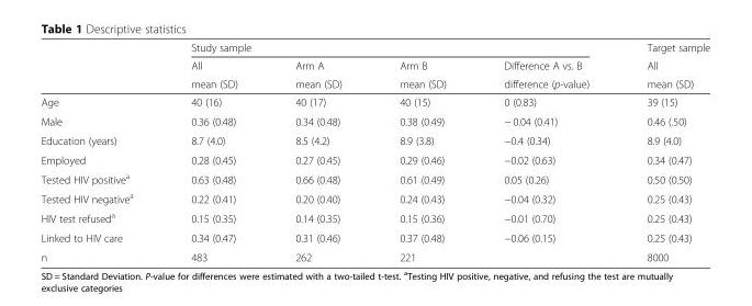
<table><thead><tr><td rowspan="3"></td><td colspan="4">Study sample</td><td rowspan="3">Target sample All mean (SD)</td></tr><tr><td rowspan="2">All mean (SD)</td><td rowspan="2">Arm A mean (SD)</td><td rowspan="2">Arm B mean (SD)</td><td rowspan="2">Difference A vs. B difference (p-value)</td></tr><tr></tr></thead><tbody><tr><td>Age</td><td>40 (16)</td><td>40 (17)</td><td>40 (15)</td><td>0 (0.83)</td><td>39 (15)</td></tr><tr><td>Male</td><td>0.36 (0.48)</td><td>0.34 (0.48)</td><td>0.38 (0.49)</td><td>− 0.04 (0.41)</td><td>0.46 (.50)</td></tr><tr><td>Education (years)</td><td>8.7 (4.0)</td><td>8.5 (4.2)</td><td>8.9 (3.8)</td><td>−0.4 (0.34)</td><td>8.9 (4.0)</td></tr><tr><td>Employed</td><td>0.28 (0.45)</td><td>0.27 (0.45)</td><td>0.29 (0.46)</td><td>−0.02 (0.63)</td><td>0.34 (0.47)</td></tr><tr><td>Tested HIV positive<sup>a</sup></td><td>0.63 (0.48)</td><td>0.66 (0.48)</td><td>0.61 (0.49)</td><td>0.05 (0.26)</td><td>0.50 (0.50)</td></tr><tr><td>Tested HIV negative<sup>a</sup></td><td>0.22 (0.41)</td><td>0.20 (0.40)</td><td>0.24 (0.43)</td><td>−0.04 (0.32)</td><td>0.25 (0.43)</td></tr><tr><td>HIV test refused<sup>a</sup></td><td>0.15 (0.35)</td><td>0.14 (0.35)</td><td>0.15 (0.36)</td><td>−0.01 (0.70)</td><td>0.25 (0.43)</td></tr><tr><td>Linked to HIV care</td><td>0.34 (0.47)</td><td>0.31 (0.46)</td><td>0.37 (0.48)</td><td>−0.06 (0.15)</td><td>0.25 (0.43)</td></tr><tr><td>n</td><td>483</td><td>262</td><td>221</td><td></td><td>8000</td></tr></tbody></table>